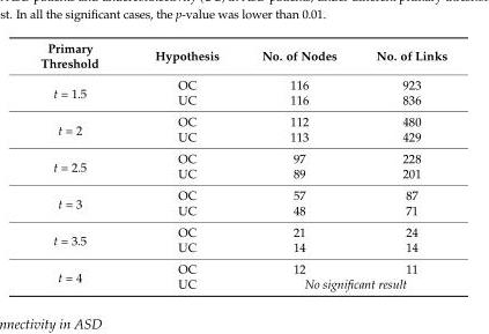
<table><thead><tr><td>Primary Threshold</td><td>Hypothesis</td><td>No. of Nodes</td><td>No. of Links</td></tr></thead><tbody><tr><td rowspan="2">t = 1.5</td><td>OC</td><td>116</td><td>923</td></tr><tr><td>UC</td><td>116</td><td>836</td></tr><tr><td rowspan="2">t = 2</td><td>OC</td><td>112</td><td>480</td></tr><tr><td>UC</td><td>113</td><td>429</td></tr><tr><td rowspan="2">t = 2.5</td><td>OC</td><td>97</td><td>228</td></tr><tr><td>UC</td><td>89</td><td>201</td></tr><tr><td rowspan="2">t = 3</td><td>OC</td><td>57</td><td>87</td></tr><tr><td>UC</td><td>48</td><td>71</td></tr><tr><td rowspan="2">t = 3.5</td><td>OC</td><td>21</td><td>24</td></tr><tr><td>UC</td><td>14</td><td>14</td></tr><tr><td rowspan="2">t = 4</td><td>OC</td><td>12</td><td>11</td></tr><tr><td>UC</td><td colspan="2">No significant result</td></tr></tbody></table>